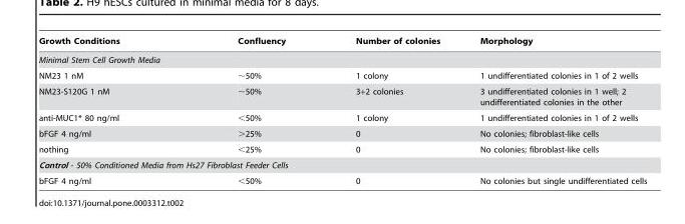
<table><thead><tr><td>Growth Conditions</td><td>Confluency</td><td>Number of colonies</td><td>Morphology</td></tr></thead><tbody><tr><td colspan="4">Minimal Stem Cell Growth Media</td></tr><tr><td>NM23 1 nM</td><td>∼50%</td><td>1 colony</td><td>1 undifferentiated colonies in 1 of 2 wells</td></tr><tr><td>NM23-S120G 1 nM</td><td>∼50%</td><td>3+2 colonies</td><td>3 undifferentiated colonies in 1 well; 2 undifferentiated colonies in the other</td></tr><tr><td>anti-MUC1* 80 ng/ml</td><td>&lt;50%</td><td>1 colony</td><td>1 undifferentiated colonies in 1 of 2 wells</td></tr><tr><td>bFGF 4 ng/ml</td><td>&gt;25%</td><td>0</td><td>No colonies; fibroblast-like cells</td></tr><tr><td>nothing</td><td>&lt;25%</td><td>0</td><td>No colonies; fibroblast-like cells</td></tr><tr><td colspan="4">Control - 50% Conditioned Media from Hs27 Fibroblast Feeder Cells</td></tr><tr><td>bFGF 4 ng/ml</td><td>&lt;50%</td><td>0</td><td>No colonies but single undifferentiated cells</td></tr></tbody></table>